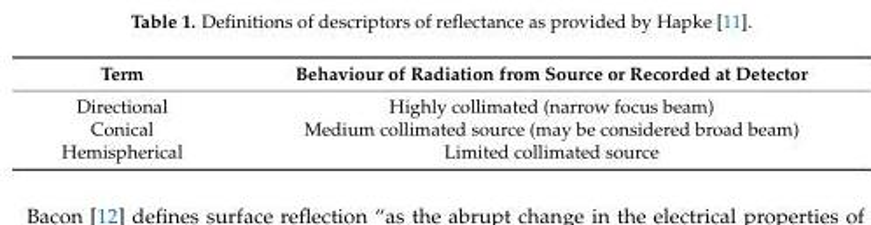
<table><thead><tr><td>Term</td><td>Behaviour of Radiation from Source or Recorded at Detector</td></tr></thead><tbody><tr><td>Directional</td><td>Highly collimated (narrow focus beam)</td></tr><tr><td>Conical</td><td>Medium collimated source (may be considered broad beam)</td></tr><tr><td>Hemispherical</td><td>Limited collimated source</td></tr></tbody></table>